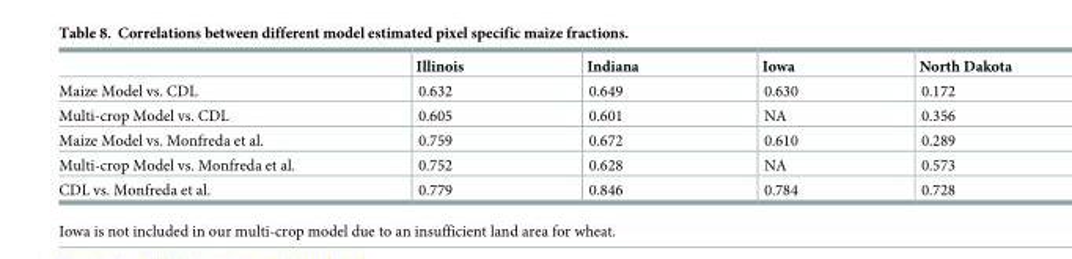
<table><thead><tr><td></td><td>Illinois</td><td>Indiana</td><td>Iowa</td><td>North Dakota</td></tr></thead><tbody><tr><td>Maize Model vs. CDL</td><td>0.632</td><td>0.649</td><td>0.630</td><td>0.172</td></tr><tr><td>Multi-crop Model vs. CDL</td><td>0.605</td><td>0.601</td><td>NA</td><td>0.356</td></tr><tr><td>Maize Model vs. Monfreda et al.</td><td>0.759</td><td>0.672</td><td>0.610</td><td>0.289</td></tr><tr><td>Multi-crop Model vs. Monfreda et al.</td><td>0.752</td><td>0.628</td><td>NA</td><td>0.573</td></tr><tr><td>CDL vs. Monfreda et al.</td><td>0.779</td><td>0.846</td><td>0.784</td><td>0.728</td></tr></tbody></table>